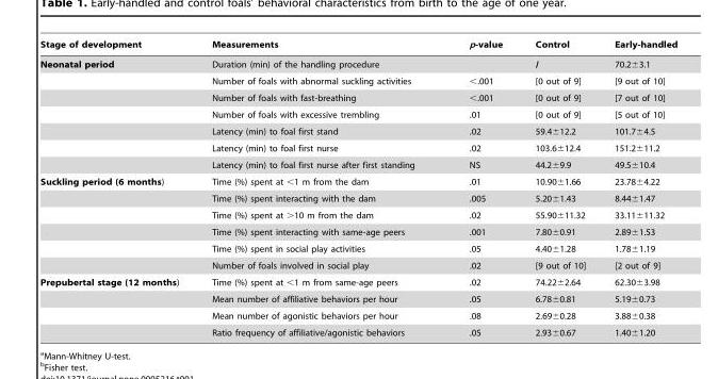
<table><thead><tr><td>Stage of development</td><td>Measurements</td><td>p-value</td><td>Control</td><td>Early-handled</td></tr></thead><tbody><tr><td rowspan="7">Neonatal period</td><td>Duration (min) of the handling procedure</td><td></td><td>/</td><td>70.2±3.1</td></tr><tr><td>Number of foals with abnormal suckling activities</td><td>&lt;.001</td><td>[0 out of 9]</td><td>[9 out of 10]</td></tr><tr><td>Number of foals with fast-breathing</td><td>&lt;.001</td><td>[0 out of 9]</td><td>[7 out of 10]</td></tr><tr><td>Number of foals with excessive trembling</td><td>.01</td><td>[0 out of 9]</td><td>[5 out of 10]</td></tr><tr><td>Latency (min) to foal first stand</td><td>.02</td><td>59.4±12.2</td><td>101.7±4.5</td></tr><tr><td>Latency (min) to foal first nurse</td><td>.02</td><td>103.6±12.4</td><td>151.2±11.2</td></tr><tr><td>Latency (min) to foal first nurse after first standing</td><td>NS</td><td>44.2±9.9</td><td>49.5±10.4</td></tr><tr><td rowspan="6">Suckling period (6 months)</td><td>Time (%) spent at &lt;1 m from the dam</td><td>.01</td><td>10.90±1.66</td><td>23.78±4.22</td></tr><tr><td>Time (%) spent interacting with the dam</td><td>.005</td><td>5.20±1.43</td><td>8.44±1.47</td></tr><tr><td>Time (%) spent at &gt;10 m from the dam</td><td>.02</td><td>55.90±11.32</td><td>33.11±11.32</td></tr><tr><td>Time (%) spent interacting with same-age peers</td><td>.001</td><td>7.80±0.91</td><td>2.89±1.53</td></tr><tr><td>Time (%) spent in social play activities</td><td>.05</td><td>4.40±1.28</td><td>1.78±1.19</td></tr><tr><td>Number of foals involved in social play</td><td>.02</td><td>[9 out of 10]</td><td>[2 out of 9]</td></tr><tr><td rowspan="4">Prepubertal stage (12 months)</td><td>Time (%) spent at &lt;1 m from same-age peers</td><td>.02</td><td>74.22±2.64</td><td>62.30±3.98</td></tr><tr><td>Mean number of affiliative behaviors per hour</td><td>.05</td><td>6.78±0.81</td><td>5.19±0.73</td></tr><tr><td>Mean number of agonistic behaviors per hour</td><td>.08</td><td>2.69±0.28</td><td>3.88±0.38</td></tr><tr><td>Ratio frequency of affiliative/agonistic behaviors</td><td>.05</td><td>2.93±0.67</td><td>1.40±1.20</td></tr></tbody></table>